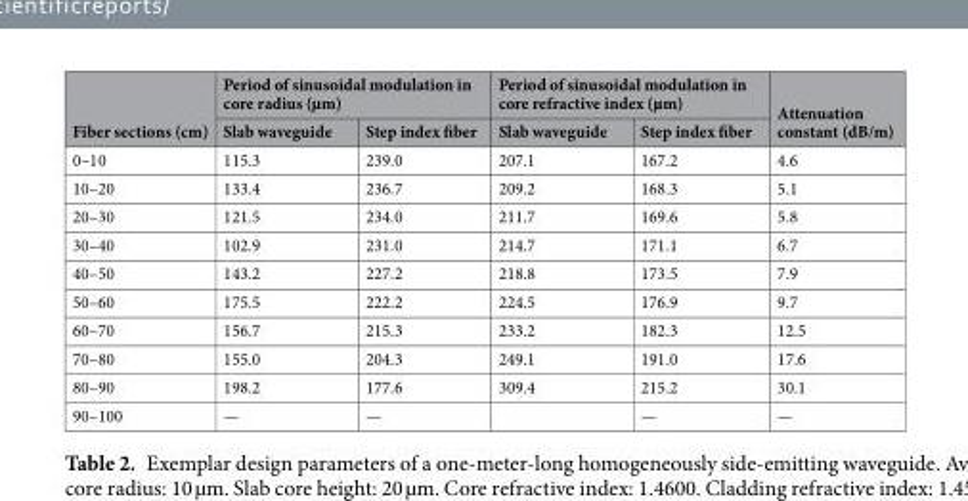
<table><thead><tr><td rowspan="2">Fiber sections (cm)</td><td colspan="2">Period of sinusoidal modulation in core radius (µm)</td><td colspan="2">Period of sinusoidal modulation in core refractive index (µm)</td><td rowspan="2">Attenuation constant (dB/m)</td></tr><tr><td>Slab waveguide</td><td>Step index fiber</td><td>Slab waveguide</td><td>Step index fiber</td></tr></thead><tbody><tr><td>0–10</td><td>115.3</td><td>239.0</td><td>207.1</td><td>167.2</td><td>4.6</td></tr><tr><td>10–20</td><td>133.4</td><td>236.7</td><td>209.2</td><td>168.3</td><td>5.1</td></tr><tr><td>20–30</td><td>121.5</td><td>234.0</td><td>211.7</td><td>169.6</td><td>5.8</td></tr><tr><td>30–40</td><td>102.9</td><td>231.0</td><td>214.7</td><td>171.1</td><td>6.7</td></tr><tr><td>40–50</td><td>143.2</td><td>227.2</td><td>218.8</td><td>173.5</td><td>7.9</td></tr><tr><td>50–60</td><td>175.5</td><td>222.2</td><td>224.5</td><td>176.9</td><td>9.7</td></tr><tr><td>60–70</td><td>156.7</td><td>215.3</td><td>233.2</td><td>182.3</td><td>12.5</td></tr><tr><td>70–80</td><td>155.0</td><td>204.3</td><td>249.1</td><td>191.0</td><td>17.6</td></tr><tr><td>80–90</td><td>198.2</td><td>177.6</td><td>309.4</td><td>215.2</td><td>30.1</td></tr><tr><td>90–100</td><td>—</td><td>—</td><td></td><td>—</td><td>—</td></tr></tbody></table>